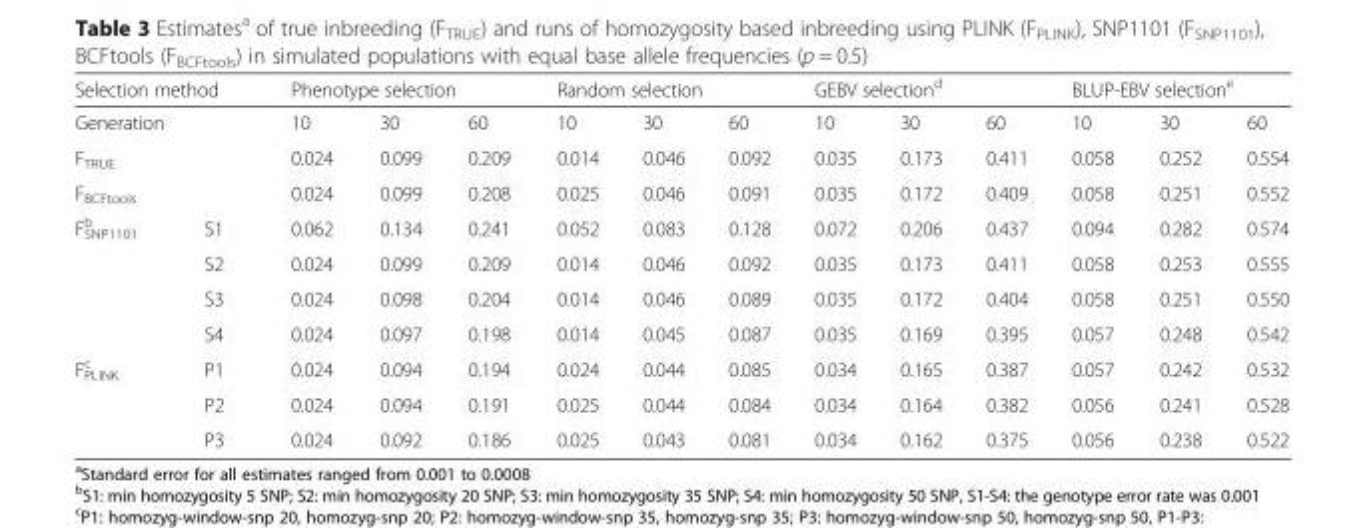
<table><thead><tr><td colspan="2">Selection method</td><td colspan="3">Phenotype selection</td><td colspan="3">Random selection</td><td colspan="3">GEBV selection<sup>d</sup></td><td colspan="3">BLUP-EBV selection<sup>e</sup></td></tr></thead><tbody><tr><td colspan="2">Generation</td><td>10</td><td>30</td><td>60</td><td>10</td><td>30</td><td>60</td><td>10</td><td>30</td><td>60</td><td>10</td><td>30</td><td>60</td></tr><tr><td colspan="2">F<sub>TRUE</sub></td><td>0.024</td><td>0.099</td><td>0.209</td><td>0.014</td><td>0.046</td><td>0.092</td><td>0.035</td><td>0.173</td><td>0.411</td><td>0.058</td><td>0.252</td><td>0.554</td></tr><tr><td colspan="2">F<sub>BCFtools</sub></td><td>0.024</td><td>0.099</td><td>0.208</td><td>0.025</td><td>0.046</td><td>0.091</td><td>0.035</td><td>0.172</td><td>0.409</td><td>0.058</td><td>0.251</td><td>0.552</td></tr><tr><td rowspan="4">F<sub>SNP1101</sub> <sup>b</sup></td><td>S1</td><td>0.062</td><td>0.134</td><td>0.241</td><td>0.052</td><td>0.083</td><td>0.128</td><td>0.072</td><td>0.206</td><td>0.437</td><td>0.094</td><td>0.282</td><td>0.574</td></tr><tr><td>S2</td><td>0.024</td><td>0.099</td><td>0.209</td><td>0.014</td><td>0.046</td><td>0.092</td><td>0.035</td><td>0.173</td><td>0.411</td><td>0.058</td><td>0.253</td><td>0.555</td></tr><tr><td>S3</td><td>0.024</td><td>0.098</td><td>0.204</td><td>0.014</td><td>0.046</td><td>0.089</td><td>0.035</td><td>0.172</td><td>0.404</td><td>0.058</td><td>0.251</td><td>0.550</td></tr><tr><td>S4</td><td>0.024</td><td>0.097</td><td>0.198</td><td>0.014</td><td>0.045</td><td>0.087</td><td>0.035</td><td>0.169</td><td>0.395</td><td>0.057</td><td>0.248</td><td>0.542</td></tr><tr><td rowspan="3">F<sub>PLINK</sub> <sup>c</sup></td><td>P1</td><td>0.024</td><td>0.094</td><td>0.194</td><td>0.024</td><td>0.044</td><td>0.085</td><td>0.034</td><td>0.165</td><td>0.387</td><td>0.057</td><td>0.242</td><td>0.532</td></tr><tr><td>P2</td><td>0.024</td><td>0.094</td><td>0.191</td><td>0.025</td><td>0.044</td><td>0.084</td><td>0.034</td><td>0.164</td><td>0.382</td><td>0.056</td><td>0.241</td><td>0.528</td></tr><tr><td>P3</td><td>0.024</td><td>0.092</td><td>0.186</td><td>0.025</td><td>0.043</td><td>0.081</td><td>0.034</td><td>0.162</td><td>0.375</td><td>0.056</td><td>0.238</td><td>0.522</td></tr></tbody></table>